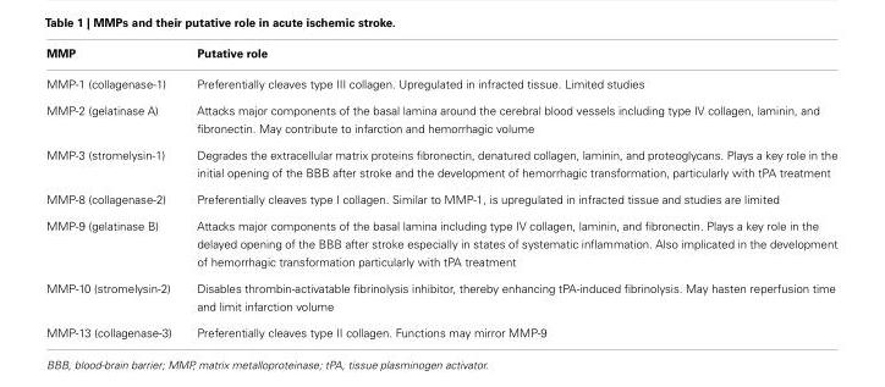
<table><thead><tr><td>MMP</td><td>Putative role</td></tr></thead><tbody><tr><td>MMP-1 (collagenase-1)</td><td>Preferentially cleaves type III collagen. Upregulated in infracted tissue. Limited studies</td></tr><tr><td>MMP-2 (gelatinase A)</td><td>Attacks major components of the basal lamina around the cerebral blood vessels including type IV collagen, laminin, and fibronectin. May contribute to infarction and hemorrhagic volume</td></tr><tr><td>MMP-3 (stromelysin-1)</td><td>Degrades the extracellular matrix proteins fibronectin, denatured collagen, laminin, and proteoglycans. Plays a key role in the initial opening of the BBB after stroke and the development of hemorrhagic transformation, particularly with tPA treatment</td></tr><tr><td>MMP-8 (collagenase-2)</td><td>Preferentially cleaves type I collagen. Similar to MMP-1, is upregulated in infracted tissue and studies are limited</td></tr><tr><td>MMP-9 (gelatinase B)</td><td>Attacks major components of the basal lamina including type IV collagen, laminin, and fibronectin. Plays a key role in the delayed opening of the BBB after stroke especially in states of systematic inflammation. Also implicated in the development of hemorrhagic transformation particularly with tPA treatment</td></tr><tr><td>MMP-10 (stromelysin-2)</td><td>Disables thrombin-activatable fibrinolysis inhibitor, thereby enhancing tPA-induced fibrinolysis. May hasten reperfusion time and limit infarction volume</td></tr><tr><td>MMP-13 (collagenase-3)</td><td>Preferentially cleaves type II collagen. Functions may mirror MMP-9</td></tr></tbody></table>